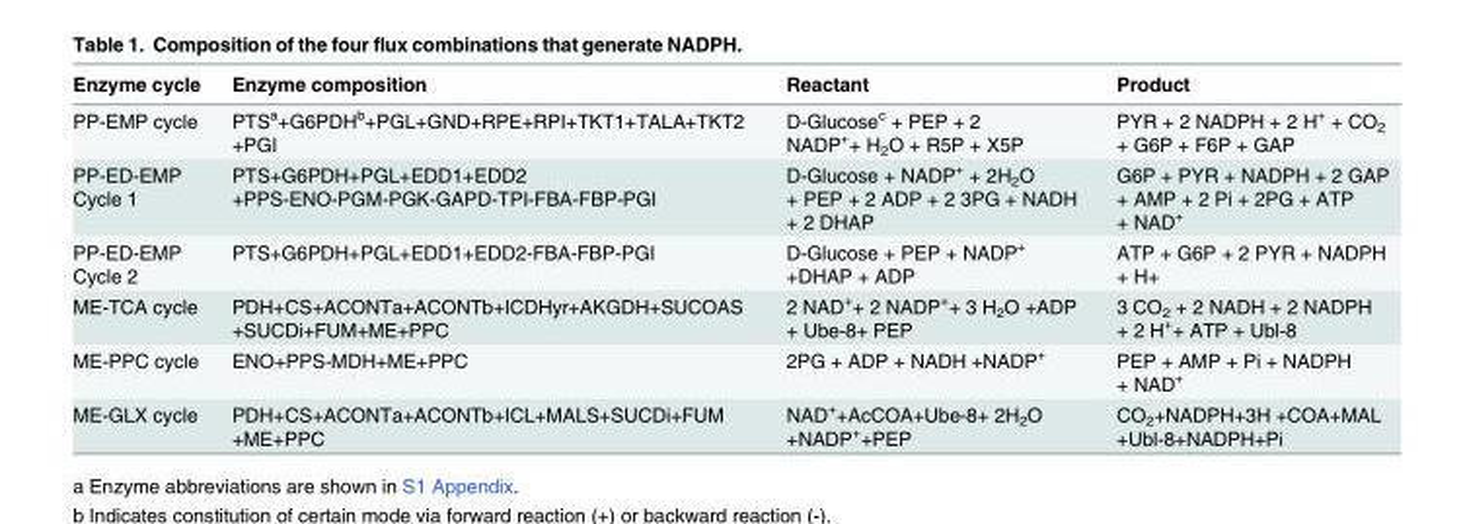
<table><thead><tr><td>Enzyme cycle</td><td>Enzyme composition</td><td>Reactant</td><td>Product</td></tr></thead><tbody><tr><td>PP-EMP cycle</td><td>PTS<sup>a</sup>+G6PDH<sup>b</sup>+PGL+GND+RPE+RPI+TKT1+TALA+TKT2 +PGI</td><td>D-Glucose<sup>c</sup> + PEP + 2 NADP<sup>+</sup>+ H<sub>2</sub>O + R5P + X5P</td><td>PYR + 2 NADPH + 2 H<sup>+</sup> + CO<sub>2</sub> + G6P + F6P + GAP</td></tr><tr><td>PP-ED-EMP Cycle 1</td><td>PTS+G6PDH+PGL+EDD1+EDD2 +PPS-ENO-PGM-PGK-GAPD-TPI-FBA-FBP-PGI</td><td>D-Glucose + NADP<sup>+</sup> + 2H<sub>2</sub>O + PEP + 2 ADP + 2 3PG + NADH + 2 DHAP</td><td>G6P + PYR + NADPH + 2 GAP + AMP + 2 Pi + 2PG + ATP + NAD<sup>+</sup></td></tr><tr><td>PP-ED-EMP Cycle 2</td><td>PTS+G6PDH+PGL+EDD1+EDD2-FBA-FBP-PGI</td><td>D-Glucose + PEP + NADP<sup>+</sup> +DHAP + ADP</td><td>ATP + G6P + 2 PYR + NADPH + H+</td></tr><tr><td>ME-TCA cycle</td><td>PDH+CS+ACONTa+ACONTb+ICDHyr+AKGDH+SUCOAS +SUCDi+FUM+ME+PPC</td><td>2 NAD<sup>+</sup>+ 2 NADP<sup>+</sup>+ 3 H<sub>2</sub>O +ADP + Ube-8+ PEP</td><td>3 CO<sub>2</sub> + 2 NADH + 2 NADPH + 2 H<sup>+</sup>+ ATP + Ubl-8</td></tr><tr><td>ME-PPC cycle</td><td>ENO+PPS-MDH+ME+PPC</td><td>2PG + ADP + NADH +NADP<sup>+</sup></td><td>PEP + AMP + Pi + NADPH + NAD<sup>+</sup></td></tr><tr><td>ME-GLX cycle</td><td>PDH+CS+ACONTa+ACONTb+ICL+MALS+SUCDi+FUM +ME+PPC</td><td>NAD<sup>+</sup>+AcCOA+Ube-8+ 2H<sub>2</sub>O +NADP<sup>+</sup>+PEP</td><td>CO<sub>2</sub>+NADPH+3H +COA+MAL +Ubl-8+NADPH+Pi</td></tr></tbody></table>